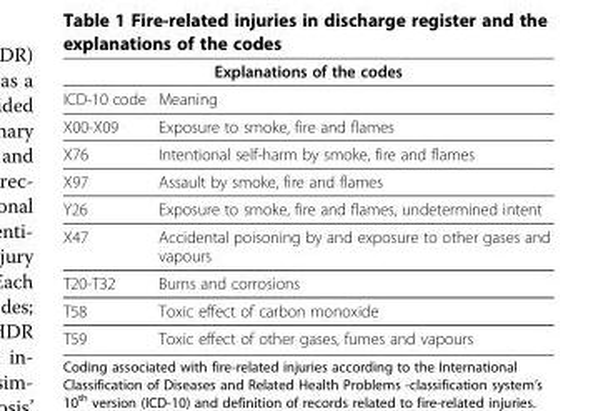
<table><thead><tr><td colspan="2">Explanations of the codes</td></tr><tr><td>ICD-10 code</td><td>Meaning</td></tr></thead><tbody><tr><td>X00-X09</td><td>Exposure to smoke, fire and flames</td></tr><tr><td>X76</td><td>Intentional self-harm by smoke, fire and flames</td></tr><tr><td>X97</td><td>Assault by smoke, fire and flames</td></tr><tr><td>Y26</td><td>Exposure to smoke, fire and flames, undetermined intent</td></tr><tr><td>X47</td><td>Accidental poisoning by and exposure to other gases and vapours</td></tr><tr><td>T20-T32</td><td>Burns and corrosions</td></tr><tr><td>T58</td><td>Toxic effect of carbon monoxide</td></tr><tr><td>T59</td><td>Toxic effect of other gases, fumes and vapours</td></tr></tbody></table>